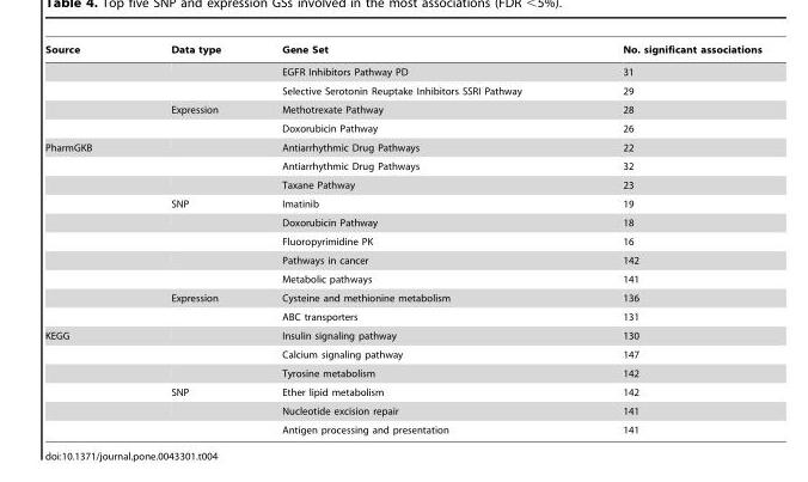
<table><thead><tr><td>Source</td><td>Data type</td><td>Gene Set</td><td>No. significant associations</td></tr></thead><tbody><tr><td></td><td></td><td>EGFR Inhibitors Pathway PD</td><td>31</td></tr><tr><td></td><td></td><td>Selective Serotonin Reuptake Inhibitors SSRI Pathway</td><td>29</td></tr><tr><td></td><td>Expression</td><td>Methotrexate Pathway</td><td>28</td></tr><tr><td></td><td></td><td>Doxorubicin Pathway</td><td>26</td></tr><tr><td rowspan="10">PharmGKB</td><td></td><td>Antiarrhythmic Drug Pathways</td><td>22</td></tr><tr><td></td><td>Antiarrhythmic Drug Pathways</td><td>32</td></tr><tr><td></td><td>Taxane Pathway</td><td>23</td></tr><tr><td>SNP</td><td>Imatinib</td><td>19</td></tr><tr><td></td><td>Doxorubicin Pathway</td><td>18</td></tr><tr><td></td><td>Fluoropyrimidine PK</td><td>16</td></tr><tr><td></td><td>Pathways in cancer</td><td>142</td></tr><tr><td></td><td>Metabolic pathways</td><td>141</td></tr><tr><td>Expression</td><td>Cysteine and methionine metabolism</td><td>136</td></tr><tr><td></td><td>ABC transporters</td><td>131</td></tr><tr><td rowspan="6">KEGG</td><td></td><td>Insulin signaling pathway</td><td>130</td></tr><tr><td></td><td>Calcium signaling pathway</td><td>147</td></tr><tr><td></td><td>Tyrosine metabolism</td><td>142</td></tr><tr><td>SNP</td><td>Ether lipid metabolism</td><td>142</td></tr><tr><td></td><td>Nucleotide excision repair</td><td>141</td></tr><tr><td></td><td>Antigen processing and presentation</td><td>141</td></tr></tbody></table>